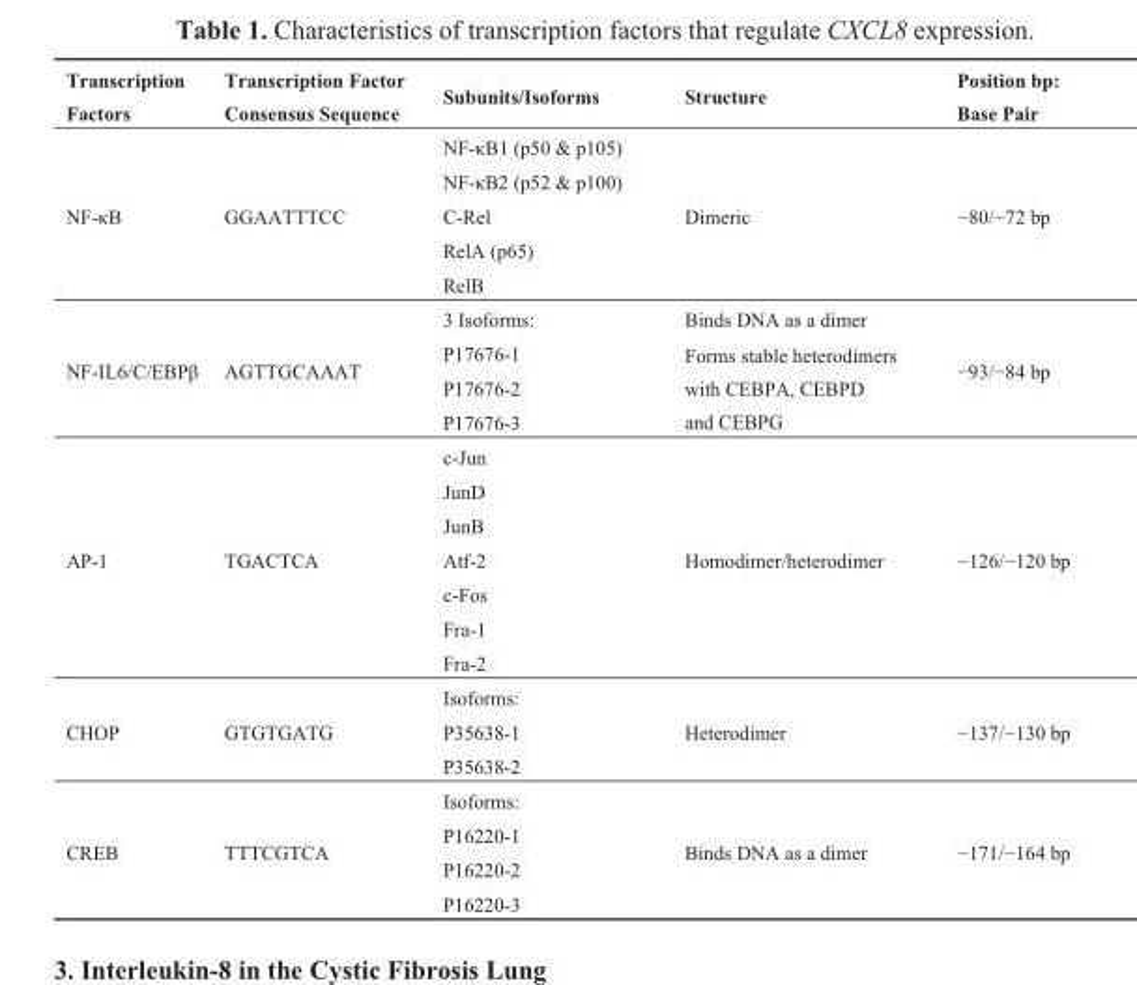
<table><thead><tr><td>Transcription Factors</td><td>Transcription Factor Consensus Sequence</td><td>Subunits/Isoforms</td><td>Structure</td><td>Position bp: Base Pair</td></tr></thead><tbody><tr><td rowspan="5">NF-κB</td><td rowspan="5">GGAATTTCC</td><td>NF-κB1 (p50 &amp; p105)</td><td rowspan="5">Dimeric</td><td rowspan="5">−80/−72 bp</td></tr><tr><td>NF-κB2 (p52 &amp; p100)</td></tr><tr><td>C-Rel</td></tr><tr><td>RelA (p65)</td></tr><tr><td>RelB</td></tr><tr><td rowspan="4">NF-IL6/C/EBPβ</td><td rowspan="4">AGTTGCAAAT</td><td>3 Isoforms:</td><td>Binds DNA as a dimer</td><td rowspan="4">−93/−84 bp</td></tr><tr><td>P17676-1</td><td rowspan="3">Forms stable heterodimers with CEBPA, CEBPD and CEBPG</td></tr><tr><td>P17676-2</td></tr><tr><td>P17676-3</td></tr><tr><td rowspan="7">AP-1</td><td rowspan="7">TGACTCA</td><td>c-Jun</td><td rowspan="7">Homodimer/heterodimer</td><td rowspan="7">−126/−120 bp</td></tr><tr><td>JunD</td></tr><tr><td>JunB</td></tr><tr><td>Atf-2</td></tr><tr><td>c-Fos</td></tr><tr><td>Fra-1</td></tr><tr><td>Fra-2</td></tr><tr><td rowspan="3">CHOP</td><td rowspan="3">GTGTGATG</td><td>Isoforms:</td><td rowspan="3">Heterodimer</td><td rowspan="3">−137/−130 bp</td></tr><tr><td>P35638-1</td></tr><tr><td>P35638-2</td></tr><tr><td rowspan="4">CREB</td><td rowspan="4">TTTCGTCA</td><td>Isoforms:</td><td rowspan="4">Binds DNA as a dimer</td><td rowspan="4">−171/−164 bp</td></tr><tr><td>P16220-1</td></tr><tr><td>P16220-2</td></tr><tr><td>P16220-3</td></tr></tbody></table>